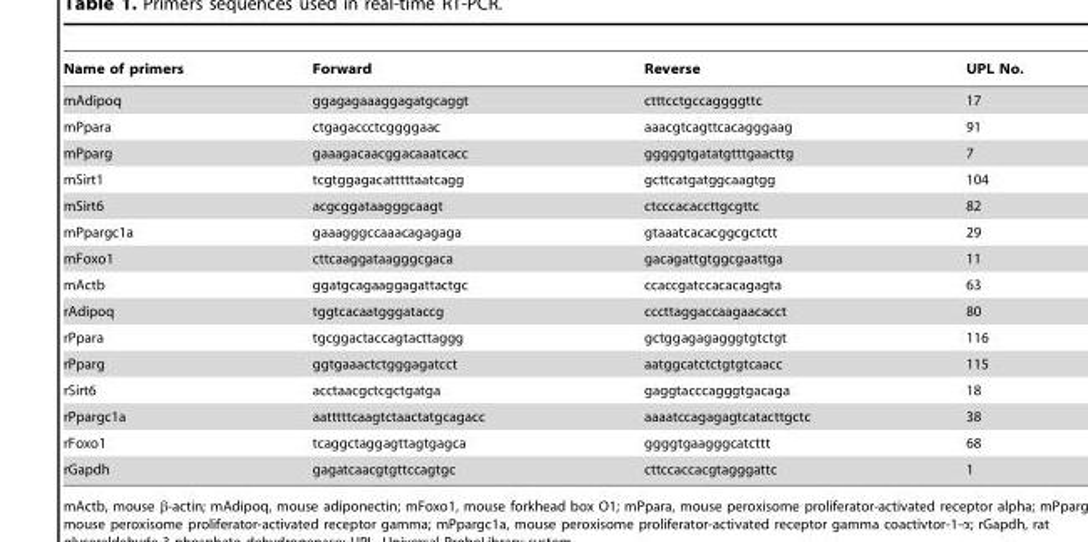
<table><thead><tr><td>Name of primers</td><td>Forward</td><td>Reverse</td><td>UPL No.</td></tr></thead><tbody><tr><td>mAdipoq</td><td>ggagagaaaggagatgcaggt</td><td>ctttcctgccaggggttc</td><td>17</td></tr><tr><td>mPpara</td><td>ctgagaccctcggggaac</td><td>aaacgtcagttcacagggaag</td><td>91</td></tr><tr><td>mPparg</td><td>gaaagacaacggacaaatcacc</td><td>gggggtgatatgtttgaacttg</td><td>7</td></tr><tr><td>mSirt1</td><td>tcgtggagacatttttaatcagg</td><td>gcttcatgatggcaagtgg</td><td>104</td></tr><tr><td>mSirt6</td><td>acgcggataagggcaagt</td><td>ctcccacaccttgcgttc</td><td>82</td></tr><tr><td>mPpargc1a</td><td>gaaagggccaaacagagaga</td><td>gtaaatcacacggcgctctt</td><td>29</td></tr><tr><td>mFoxo1</td><td>cttcaaggataagggcgaca</td><td>gacagattgtggcgaattga</td><td>11</td></tr><tr><td>mActb</td><td>ggatgcagaaggagattactgc</td><td>ccaccgatccacacagagta</td><td>63</td></tr><tr><td>rAdipoq</td><td>tggtcacaatgggataccg</td><td>cccttaggaccaagaacacct</td><td>80</td></tr><tr><td>rPpara</td><td>tgcggactaccagtacttaggg</td><td>gctggagagagggtgtctgt</td><td>116</td></tr><tr><td>rPparg</td><td>ggtgaaactctgggagatcct</td><td>aatggcatctctgtgtcaacc</td><td>115</td></tr><tr><td>rSirt6</td><td>acctaacgctcgctgatga</td><td>gaggtacccagggtgacaga</td><td>18</td></tr><tr><td>rPpargc1a</td><td>aatttttcaagtctaactatgcagacc</td><td>aaaatccagagagtcatacttgctc</td><td>38</td></tr><tr><td>rFoxo1</td><td>tcaggctaggagttagtgagca</td><td>ggggtgaagggcatcttt</td><td>68</td></tr><tr><td>rGapdh</td><td>gagatcaacgtgttccagtgc</td><td>cttccaccacgtagggattc</td><td>1</td></tr></tbody></table>